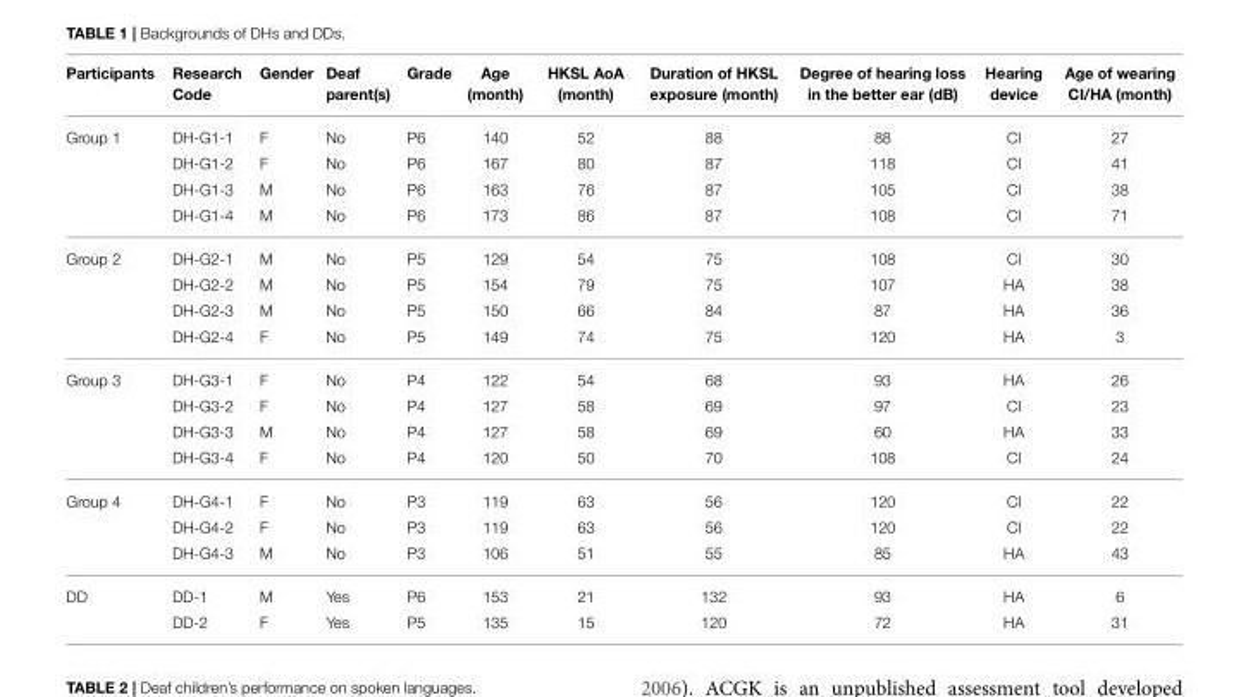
<table><thead><tr><td>Participants</td><td>Research Code</td><td>Gender</td><td>Deaf parent(s)</td><td>Grade</td><td>Age (month)</td><td>HKSL AoA (month)</td><td>Duration of HKSL exposure (month)</td><td>Degree of hearing loss in the better ear (dB)</td><td>Hearing device</td><td>Age of wearing CI/HA (month)</td></tr></thead><tbody><tr><td rowspan="4">Group 1</td><td>DH-G1-1</td><td>F</td><td>No</td><td>P6</td><td>140</td><td>52</td><td>88</td><td>88</td><td>CI</td><td>27</td></tr><tr><td>DH-G1-2</td><td>F</td><td>No</td><td>P6</td><td>167</td><td>80</td><td>87</td><td>118</td><td>CI</td><td>41</td></tr><tr><td>DH-G1-3</td><td>M</td><td>No</td><td>P6</td><td>163</td><td>76</td><td>87</td><td>105</td><td>CI</td><td>38</td></tr><tr><td>DH-G1-4</td><td>M</td><td>No</td><td>P6</td><td>173</td><td>86</td><td>87</td><td>108</td><td>CI</td><td>71</td></tr><tr><td rowspan="4">Group 2</td><td>DH-G2-1</td><td>M</td><td>No</td><td>P5</td><td>129</td><td>54</td><td>75</td><td>108</td><td>CI</td><td>30</td></tr><tr><td>DH-G2-2</td><td>M</td><td>No</td><td>P5</td><td>154</td><td>79</td><td>75</td><td>107</td><td>HA</td><td>38</td></tr><tr><td>DH-G2-3</td><td>M</td><td>No</td><td>P5</td><td>150</td><td>66</td><td>84</td><td>87</td><td>HA</td><td>36</td></tr><tr><td>DH-G2-4</td><td>F</td><td>No</td><td>P5</td><td>149</td><td>74</td><td>75</td><td>120</td><td>HA</td><td>3</td></tr><tr><td rowspan="4">Group 3</td><td>DH-G3-1</td><td>F</td><td>No</td><td>P4</td><td>122</td><td>54</td><td>68</td><td>93</td><td>HA</td><td>26</td></tr><tr><td>DH-G3-2</td><td>F</td><td>No</td><td>P4</td><td>127</td><td>58</td><td>69</td><td>97</td><td>CI</td><td>23</td></tr><tr><td>DH-G3-3</td><td>M</td><td>No</td><td>P4</td><td>127</td><td>58</td><td>69</td><td>60</td><td>HA</td><td>33</td></tr><tr><td>DH-G3-4</td><td>F</td><td>No</td><td>P4</td><td>120</td><td>50</td><td>70</td><td>108</td><td>CI</td><td>24</td></tr><tr><td rowspan="3">Group 4</td><td>DH-G4-1</td><td>F</td><td>No</td><td>P3</td><td>119</td><td>63</td><td>56</td><td>120</td><td>CI</td><td>22</td></tr><tr><td>DH-G4-2</td><td>F</td><td>No</td><td>P3</td><td>119</td><td>63</td><td>56</td><td>120</td><td>CI</td><td>22</td></tr><tr><td>DH-G4-3</td><td>M</td><td>No</td><td>P3</td><td>106</td><td>51</td><td>55</td><td>85</td><td>HA</td><td>43</td></tr><tr><td rowspan="2">DD</td><td>DD-1</td><td>M</td><td>Yes</td><td>P6</td><td>153</td><td>21</td><td>132</td><td>93</td><td>HA</td><td>6</td></tr><tr><td>DD-2</td><td>F</td><td>Yes</td><td>P5</td><td>135</td><td>15</td><td>120</td><td>72</td><td>HA</td><td>31</td></tr></tbody></table>